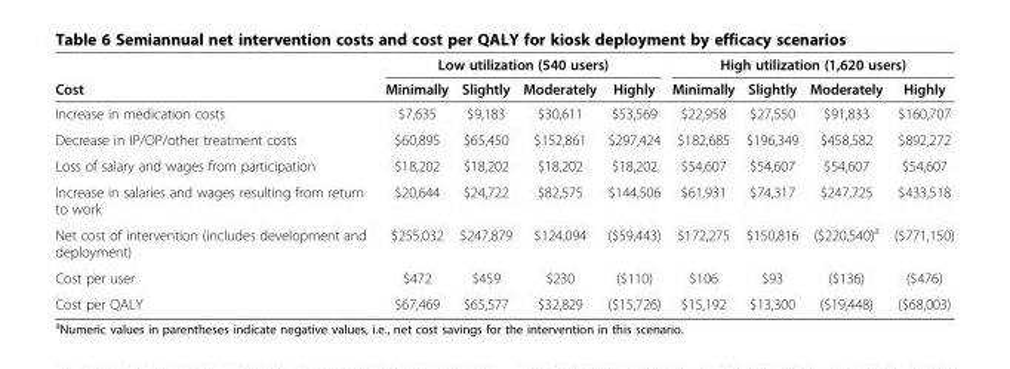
<table><thead><tr><td rowspan="2">Cost</td><td colspan="4">Low utilization (540 users)</td><td colspan="4">High utilization (1,620 users)</td></tr><tr><td>Minimally</td><td>Slightly</td><td>Moderately</td><td>Highly</td><td>Minimally</td><td>Slightly</td><td>Moderately</td><td>Highly</td></tr></thead><tbody><tr><td>Increase in medication costs</td><td>$7,635</td><td>$9,183</td><td>$30,611</td><td>$53,569</td><td>$22,958</td><td>$27,550</td><td>$91,833</td><td>$160,707</td></tr><tr><td>Decrease in IP/OP/other treatment costs</td><td>$60,895</td><td>$65,450</td><td>$152,861</td><td>$297,424</td><td>$182,685</td><td>$196,349</td><td>$458,582</td><td>$892,272</td></tr><tr><td>Loss of salary and wages from participation</td><td>$18,202</td><td>$18,202</td><td>$18,202</td><td>$18,202</td><td>$54,607</td><td>$54,607</td><td>$54,607</td><td>$54,607</td></tr><tr><td>Increase in salaries and wages resulting from return to work</td><td>$20,644</td><td>$24,722</td><td>$82,575</td><td>$144,506</td><td>$61,931</td><td>$74,317</td><td>$247,725</td><td>$433,518</td></tr><tr><td>Net cost of intervention (includes development and deployment)</td><td>$255,032</td><td>$247,879</td><td>$124,094</td><td>($59,443)</td><td>$172,275</td><td>$150,816</td><td>($220,540)<sup>a</sup></td><td>($771,150)</td></tr><tr><td>Cost per user</td><td>$472</td><td>$459</td><td>$230</td><td>($110)</td><td>$106</td><td>$93</td><td>($136)</td><td>($476)</td></tr><tr><td>Cost per QALY</td><td>$67,469</td><td>$65,577</td><td>$32,829</td><td>($15,726)</td><td>$15,192</td><td>$13,300</td><td>($19,448)</td><td>($68,003)</td></tr></tbody></table>